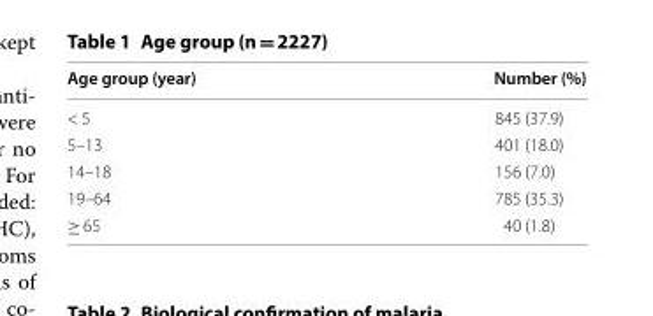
<table><thead><tr><td>Age group (year)</td><td>Number (%)</td></tr></thead><tbody><tr><td>&lt; 5</td><td>845 (37.9)</td></tr><tr><td>5–13</td><td>401 (18.0)</td></tr><tr><td>14–18</td><td>156 (7.0)</td></tr><tr><td>19–64</td><td>785 (35.3)</td></tr><tr><td>≥ 65</td><td>40 (1.8)</td></tr></tbody></table>